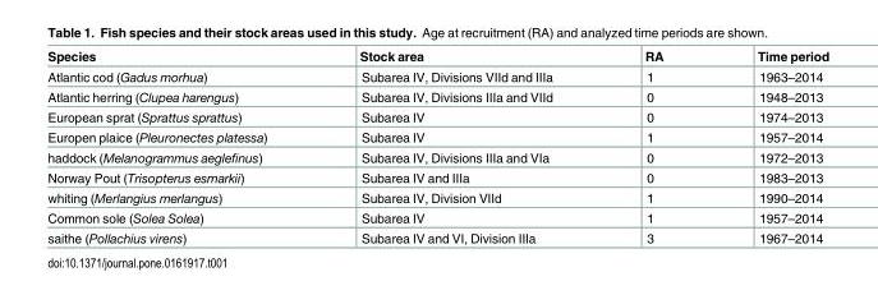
<table><thead><tr><td>Species</td><td>Stock area</td><td>RA</td><td>Time period</td></tr></thead><tbody><tr><td>Atlantic cod (Gadus morhua)</td><td>Subarea IV, Divisions VIId and IIIa</td><td>1</td><td>1963–2014</td></tr><tr><td>Atlantic herring (Clupea harengus)</td><td>Subarea IV, Divisions IIIa and VIId</td><td>0</td><td>1948–2013</td></tr><tr><td>European sprat (Sprattus sprattus)</td><td>Subarea IV</td><td>0</td><td>1974–2013</td></tr><tr><td>Europen plaice (Pleuronectes platessa)</td><td>Subarea IV</td><td>1</td><td>1957–2014</td></tr><tr><td>haddock (Melanogrammus aeglefinus)</td><td>Subarea IV, Divisions IIIa and VIa</td><td>0</td><td>1972–2013</td></tr><tr><td>Norway Pout (Trisopterus esmarkii)</td><td>Subarea IV and IIIa</td><td>0</td><td>1983–2013</td></tr><tr><td>whiting (Merlangius merlangus)</td><td>Subarea IV, Division VIId</td><td>1</td><td>1990–2014</td></tr><tr><td>Common sole (Solea Solea)</td><td>Subarea IV</td><td>1</td><td>1957–2014</td></tr><tr><td>saithe (Pollachius virens)</td><td>Subarea IV and VI, Division IIIa</td><td>3</td><td>1967–2014</td></tr></tbody></table>